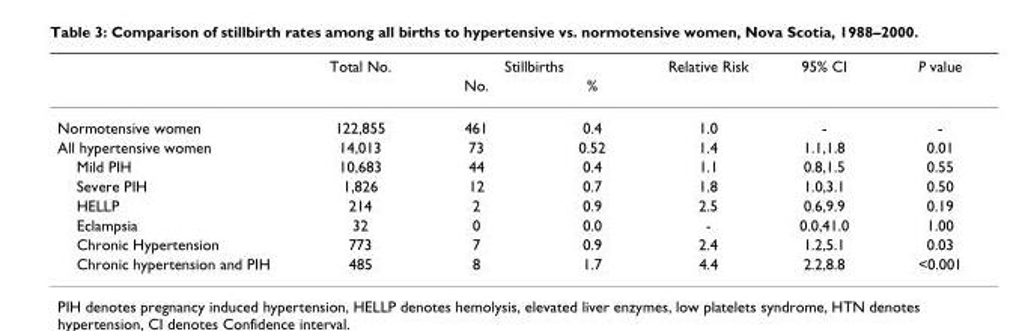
<table><thead><tr><td rowspan="2"></td><td rowspan="2">Total No.</td><td colspan="2">Stillbirths</td><td rowspan="2">Relative Risk</td><td rowspan="2">95% CI</td><td rowspan="2">P value</td></tr><tr><td>No.</td><td>%</td></tr></thead><tbody><tr><td>Normotensive women</td><td>122,855</td><td>461</td><td>0.4</td><td>1.0</td><td>-</td><td>-</td></tr><tr><td>All hypertensive women</td><td>14,013</td><td>73</td><td>0.52</td><td>1.4</td><td>1.1,1.8</td><td>0.01</td></tr><tr><td>Mild PIH</td><td>10,683</td><td>44</td><td>0.4</td><td>1.1</td><td>0.8,1.5</td><td>0.55</td></tr><tr><td>Severe PIH</td><td>1,826</td><td>12</td><td>0.7</td><td>1.8</td><td>1.0,3.1</td><td>0.50</td></tr><tr><td>HELLP</td><td>214</td><td>2</td><td>0.9</td><td>2.5</td><td>0.6,9.9</td><td>0.19</td></tr><tr><td>Eclampsia</td><td>32</td><td>0</td><td>0.0</td><td>-</td><td>0.0,41.0</td><td>1.00</td></tr><tr><td>Chronic Hypertension</td><td>773</td><td>7</td><td>0.9</td><td>2.4</td><td>1.2,5.1</td><td>0.03</td></tr><tr><td>Chronic hypertension and PIH</td><td>485</td><td>8</td><td>1.7</td><td>4.4</td><td>2.2,8.8</td><td>&lt;0.001</td></tr></tbody></table>